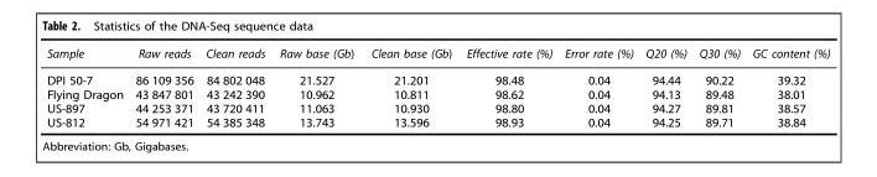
<table><thead><tr><td>Sample</td><td>Raw reads</td><td>Clean reads</td><td>Raw base (Gb)</td><td>Clean base (Gb)</td><td>Effective rate (%)</td><td>Error rate (%)</td><td>Q20 (%)</td><td>Q30 (%)</td><td>GC content (%)</td></tr></thead><tbody><tr><td>DPI 50-7</td><td>86 109 356</td><td>84 802 048</td><td>21.527</td><td>21.201</td><td>98.48</td><td>0.04</td><td>94.44</td><td>90.22</td><td>39.32</td></tr><tr><td>Flying Dragon</td><td>43 847 801</td><td>43 242 390</td><td>10.962</td><td>10.811</td><td>98.62</td><td>0.04</td><td>94.13</td><td>89.48</td><td>38.01</td></tr><tr><td>US-897</td><td>44 253 371</td><td>43 720 411</td><td>11.063</td><td>10.930</td><td>98.80</td><td>0.04</td><td>94.27</td><td>89.81</td><td>38.57</td></tr><tr><td>US-812</td><td>54 971 421</td><td>54 385 348</td><td>13.743</td><td>13.596</td><td>98.93</td><td>0.04</td><td>94.25</td><td>89.71</td><td>38.84</td></tr></tbody></table>